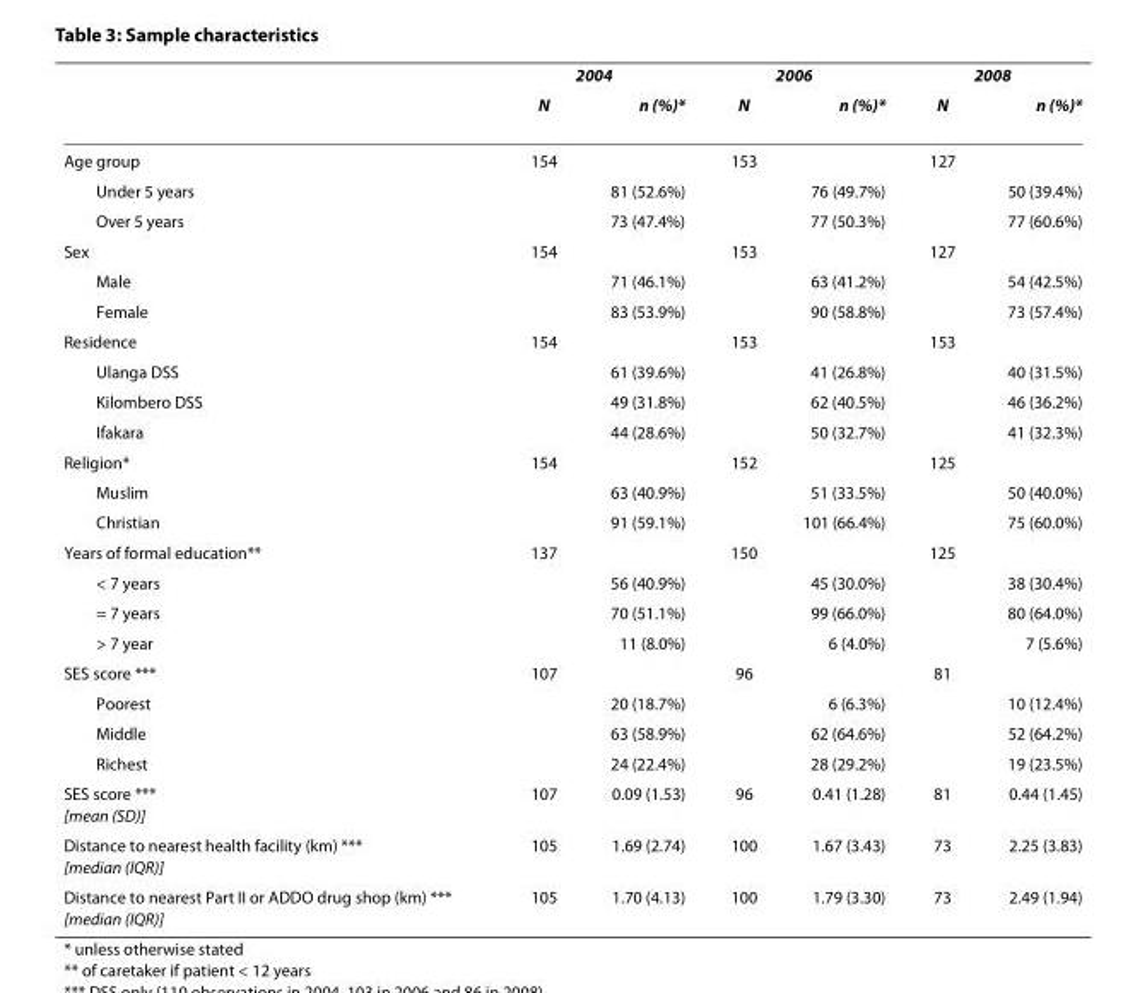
<table><thead><tr><td rowspan="2"></td><td colspan="2">2004</td><td colspan="2">2006</td><td colspan="2">2008</td></tr><tr><td>N</td><td>n (%)*</td><td>N</td><td>n (%)*</td><td>N</td><td>n (%)*</td></tr></thead><tbody><tr><td>Age group</td><td>154</td><td></td><td>153</td><td></td><td>127</td><td></td></tr><tr><td>Under 5 years</td><td></td><td>81 (52.6%)</td><td></td><td>76 (49.7%)</td><td></td><td>50 (39.4%)</td></tr><tr><td>Over 5 years</td><td></td><td>73 (47.4%)</td><td></td><td>77 (50.3%)</td><td></td><td>77 (60.6%)</td></tr><tr><td>Sex</td><td>154</td><td></td><td>153</td><td></td><td>127</td><td></td></tr><tr><td>Male</td><td></td><td>71 (46.1%)</td><td></td><td>63 (41.2%)</td><td></td><td>54 (42.5%)</td></tr><tr><td>Female</td><td></td><td>83 (53.9%)</td><td></td><td>90 (58.8%)</td><td></td><td>73 (57.4%)</td></tr><tr><td>Residence</td><td>154</td><td></td><td>153</td><td></td><td>153</td><td></td></tr><tr><td>Ulanga DSS</td><td></td><td>61 (39.6%)</td><td></td><td>41 (26.8%)</td><td></td><td>40 (31.5%)</td></tr><tr><td>Kilombero DSS</td><td></td><td>49 (31.8%)</td><td></td><td>62 (40.5%)</td><td></td><td>46 (36.2%)</td></tr><tr><td>Ifakara</td><td></td><td>44 (28.6%)</td><td></td><td>50 (32.7%)</td><td></td><td>41 (32.3%)</td></tr><tr><td>Religion*</td><td>154</td><td></td><td>152</td><td></td><td>125</td><td></td></tr><tr><td>Muslim</td><td></td><td>63 (40.9%)</td><td></td><td>51 (33.5%)</td><td></td><td>50 (40.0%)</td></tr><tr><td>Christian</td><td></td><td>91 (59.1%)</td><td></td><td>101 (66.4%)</td><td></td><td>75 (60.0%)</td></tr><tr><td>Years of formal education**</td><td>137</td><td></td><td>150</td><td></td><td>125</td><td></td></tr><tr><td>&lt; 7 years</td><td></td><td>56 (40.9%)</td><td></td><td>45 (30.0%)</td><td></td><td>38 (30.4%)</td></tr><tr><td>= 7 years</td><td></td><td>70 (51.1%)</td><td></td><td>99 (66.0%)</td><td></td><td>80 (64.0%)</td></tr><tr><td>&gt; 7 year</td><td></td><td>11 (8.0%)</td><td></td><td>6 (4.0%)</td><td></td><td>7 (5.6%)</td></tr><tr><td>SES score ***</td><td>107</td><td></td><td>96</td><td></td><td>81</td><td></td></tr><tr><td>Poorest</td><td></td><td>20 (18.7%)</td><td></td><td>6 (6.3%)</td><td></td><td>10 (12.4%)</td></tr><tr><td>Middle</td><td></td><td>63 (58.9%)</td><td></td><td>62 (64.6%)</td><td></td><td>52 (64.2%)</td></tr><tr><td>Richest</td><td></td><td>24 (22.4%)</td><td></td><td>28 (29.2%)</td><td></td><td>19 (23.5%)</td></tr><tr><td>SES score *** [mean (SD)]</td><td>107</td><td>0.09 (1.53)</td><td>96</td><td>0.41 (1.28)</td><td>81</td><td>0.44 (1.45)</td></tr><tr><td>Distance to nearest health facility (km) *** [median (IQR)]</td><td>105</td><td>1.69 (2.74)</td><td>100</td><td>1.67 (3.43)</td><td>73</td><td>2.25 (3.83)</td></tr><tr><td>Distance to nearest Part II or ADDO drug shop (km) *** [median (IQR)]</td><td>105</td><td>1.70 (4.13)</td><td>100</td><td>1.79 (3.30)</td><td>73</td><td>2.49 (1.94)</td></tr></tbody></table>